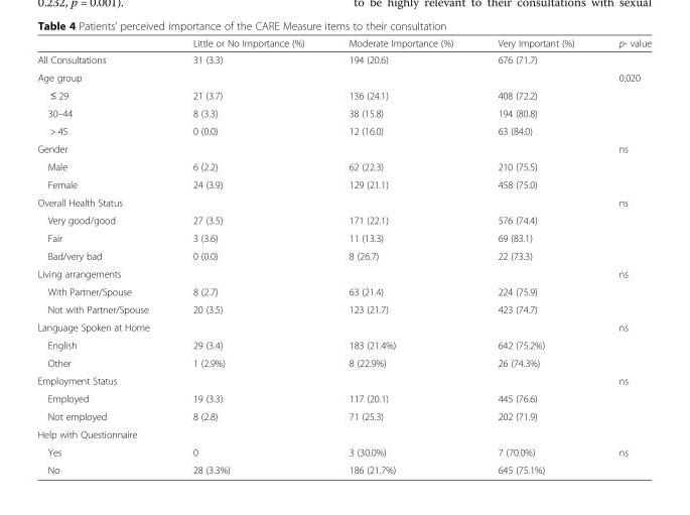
<table><thead><tr><td></td><td>Little or No Importance (%)</td><td>Moderate Importance (%)</td><td>Very Important (%)</td><td>p- value</td></tr></thead><tbody><tr><td>All Consultations</td><td>31 (3.3)</td><td>194 (20.6)</td><td>676 (71.7)</td><td></td></tr><tr><td colspan="4">Age group</td><td>0.020</td></tr><tr><td>≤ 29</td><td>21 (3.7)</td><td>136 (24.1)</td><td>408 (72.2)</td><td></td></tr><tr><td>30–44</td><td>8 (3.3)</td><td>38 (15.8)</td><td>194 (80.8)</td><td></td></tr><tr><td>&gt; 45</td><td>0 (0.0)</td><td>12 (16.0)</td><td>63 (84.0)</td><td></td></tr><tr><td colspan="4">Gender</td><td>ns</td></tr><tr><td>Male</td><td>6 (2.2)</td><td>62 (22.3)</td><td>210 (75.5)</td><td></td></tr><tr><td>Female</td><td>24 (3.9)</td><td>129 (21.1)</td><td>458 (75.0)</td><td></td></tr><tr><td colspan="4">Overall Health Status</td><td>ns</td></tr><tr><td>Very good/good</td><td>27 (3.5)</td><td>171 (22.1)</td><td>576 (74.4)</td><td></td></tr><tr><td>Fair</td><td>3 (3.6)</td><td>11 (13.3)</td><td>69 (83.1)</td><td></td></tr><tr><td>Bad/very bad</td><td>0 (0.0)</td><td>8 (26.7)</td><td>22 (73.3)</td><td></td></tr><tr><td colspan="4">Living arrangements</td><td>ns</td></tr><tr><td>With Partner/Spouse</td><td>8 (2.7)</td><td>63 (21.4)</td><td>224 (75.9)</td><td></td></tr><tr><td>Not with Partner/Spouse</td><td>20 (3.5)</td><td>123 (21.7)</td><td>423 (74.7)</td><td></td></tr><tr><td colspan="4">Language Spoken at Home</td><td>ns</td></tr><tr><td>English</td><td>29 (3.4)</td><td>183 (21.4%)</td><td>642 (75.2%)</td><td></td></tr><tr><td>Other</td><td>1 (2.9%)</td><td>8 (22.9%)</td><td>26 (74.3%)</td><td></td></tr><tr><td colspan="4">Employment Status</td><td>ns</td></tr><tr><td>Employed</td><td>19 (3.3)</td><td>117 (20.1)</td><td>445 (76.6)</td><td></td></tr><tr><td>Not employed</td><td>8 (2.8)</td><td>71 (25.3)</td><td>202 (71.9)</td><td></td></tr><tr><td colspan="5">Help with Questionnaire</td></tr><tr><td>Yes</td><td>0</td><td>3 (30.0%)</td><td>7 (70.0%)</td><td>ns</td></tr><tr><td>No</td><td>28 (3.3%)</td><td>186 (21.7%)</td><td>645 (75.1%)</td><td></td></tr></tbody></table>